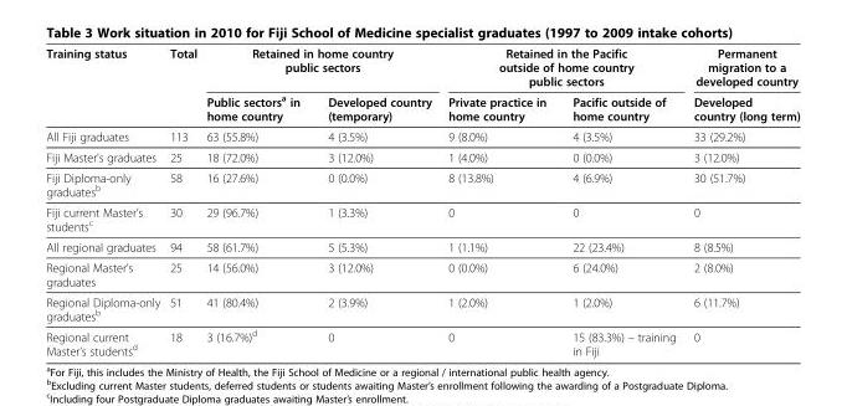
<table><thead><tr><td rowspan="2">Training status</td><td rowspan="2">Total</td><td colspan="2">Retained in home country public sectors</td><td colspan="2">Retained in the Pacific outside of home country public sectors</td><td rowspan="2">Permanent migration to a developed country Developed country (long term)</td></tr><tr><td>Public sectors<sup>a</sup> in home country</td><td>Developed country (temporary)</td><td>Private practice in home country</td><td>Pacific outside of home country</td></tr></thead><tbody><tr><td>All Fiji graduates</td><td>113</td><td>63 (55.8%)</td><td>4 (3.5%)</td><td>9 (8.0%)</td><td>4 (3.5%)</td><td>33 (29.2%)</td></tr><tr><td>Fiji Master’s graduates</td><td>25</td><td>18 (72.0%)</td><td>3 (12.0%)</td><td>1 (4.0%)</td><td>0 (0.0%)</td><td>3 (12.0%)</td></tr><tr><td>Fiji Diploma-only graduates<sup>b</sup></td><td>58</td><td>16 (27.6%)</td><td>0 (0.0%)</td><td>8 (13.8%)</td><td>4 (6.9%)</td><td>30 (51.7%)</td></tr><tr><td>Fiji current Master’s students<sup>c</sup></td><td>30</td><td>29 (96.7%)</td><td>1 (3.3%)</td><td>0</td><td>0</td><td>0</td></tr><tr><td>All regional graduates</td><td>94</td><td>58 (61.7%)</td><td>5 (5.3%)</td><td>1 (1.1%)</td><td>22 (23.4%)</td><td>8 (8.5%)</td></tr><tr><td>Regional Master’s graduates</td><td>25</td><td>14 (56.0%)</td><td>3 (12.0%)</td><td>0 (0.0%)</td><td>6 (24.0%)</td><td>2 (8.0%)</td></tr><tr><td>Regional Diploma-only graduates<sup>b</sup></td><td>51</td><td>41 (80.4%)</td><td>2 (3.9%)</td><td>1 (2.0%)</td><td>1 (2.0%)</td><td>6 (11.7%)</td></tr><tr><td>Regional current Master’s students<sup>d</sup></td><td>18</td><td>3 (16.7%)<sup>d</sup></td><td>0</td><td>0</td><td>15 (83.3%) – training in Fiji</td><td>0</td></tr></tbody></table>